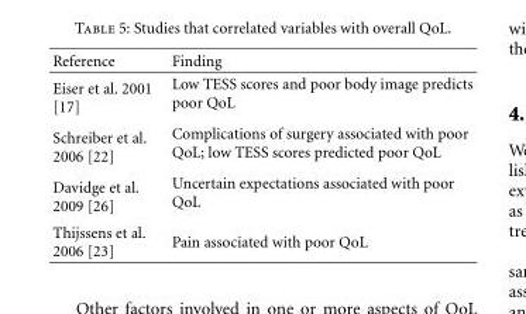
<table><thead><tr><td>Reference</td><td>Finding</td></tr></thead><tbody><tr><td>Eiser et al. 2001 [17]</td><td>Low TESS scores and poor body image predicts poor QoL</td></tr><tr><td>Schreiber et al. 2006 [22]</td><td>Complications of surgery associated with poor QoL; low TESS scores predicted poor QoL</td></tr><tr><td>Davidge et al. 2009 [26]</td><td>Uncertain expectations associated with poor QoL</td></tr><tr><td>Thijssens et al. 2006 [23]</td><td>Pain associated with poor QoL</td></tr></tbody></table>